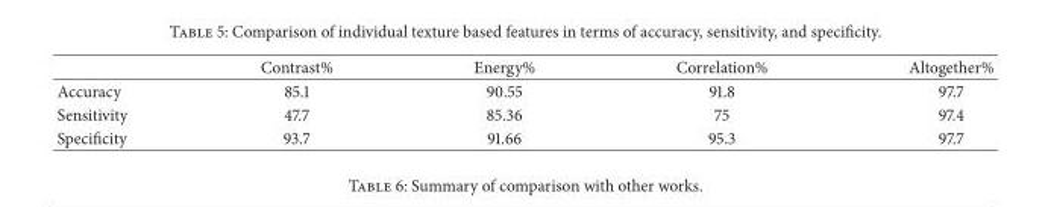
<table><thead><tr><td></td><td>Contrast%</td><td>Energy%</td><td>Correlation%</td><td>Altogether%</td></tr></thead><tbody><tr><td>Accuracy</td><td>85.1</td><td>90.55</td><td>91.8</td><td>97.7</td></tr><tr><td>Sensitivity</td><td>47.7</td><td>85.36</td><td>75</td><td>97.4</td></tr><tr><td>Specificity</td><td>93.7</td><td>91.66</td><td>95.3</td><td>97.7</td></tr></tbody></table>